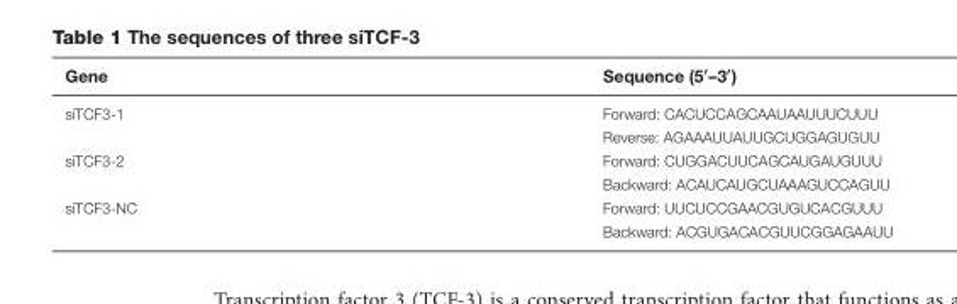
<table><thead><tr><td>Gene</td><td>Sequence (5′–3′)</td></tr></thead><tbody><tr><td rowspan="2">siTCF3-1</td><td>Forward: CACUCCAGCAAUAAUUUCUUU</td></tr><tr><td>Reverse: AGAAAUUAUUGCUGGAGUGUU</td></tr><tr><td rowspan="2">siTCF3-2</td><td>Forward: CUGGACUUCAGCAUGAUGUUU</td></tr><tr><td>Backward: ACAUCAUGCUAAAGUCCAGUU</td></tr><tr><td rowspan="2">siTCF3-NC</td><td>Forward: UUCUCCGAACGUGUCACGUUU</td></tr><tr><td>Backward: ACGUGACACGUUCGGAGAAUU</td></tr></tbody></table>